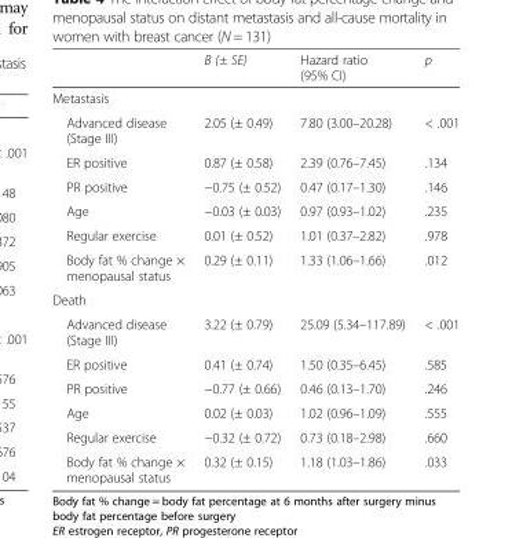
<table><thead><tr><td></td><td>B (± SE)</td><td>Hazard ratio (95% CI)</td><td>p</td></tr></thead><tbody><tr><td colspan="4">Metastasis</td></tr><tr><td>Advanced disease (Stage III)</td><td>2.05 (± 0.49)</td><td>7.80 (3.00–20.28)</td><td>&lt; .001</td></tr><tr><td>ER positive</td><td>0.87 (± 0.58)</td><td>2.39 (0.76–7.45)</td><td>.134</td></tr><tr><td>PR positive</td><td>−0.75 (± 0.52)</td><td>0.47 (0.17–1.30)</td><td>.146</td></tr><tr><td>Age</td><td>−0.03 (± 0.03)</td><td>0.97 (0.93–1.02)</td><td>.235</td></tr><tr><td>Regular exercise</td><td>0.01 (± 0.52)</td><td>1.01 (0.37–2.82)</td><td>.978</td></tr><tr><td>Body fat % change × menopausal status</td><td>0.29 (± 0.11)</td><td>1.33 (1.06–1.66)</td><td>.012</td></tr><tr><td colspan="4">Death</td></tr><tr><td>Advanced disease (Stage III)</td><td>3.22 (± 0.79)</td><td>25.09 (5.34–117.89)</td><td>&lt; .001</td></tr><tr><td>ER positive</td><td>0.41 (± 0.74)</td><td>1.50 (0.35–6.45)</td><td>.585</td></tr><tr><td>PR positive</td><td>−0.77 (± 0.66)</td><td>0.46 (0.13–1.70)</td><td>.246</td></tr><tr><td>Age</td><td>0.02 (± 0.03)</td><td>1.02 (0.96–1.09)</td><td>.555</td></tr><tr><td>Regular exercise</td><td>−0.32 (± 0.72)</td><td>0.73 (0.18–2.98)</td><td>.660</td></tr><tr><td>Body fat % change × menopausal status</td><td>0.32 (± 0.15)</td><td>1.18 (1.03–1.86)</td><td>.033</td></tr></tbody></table>